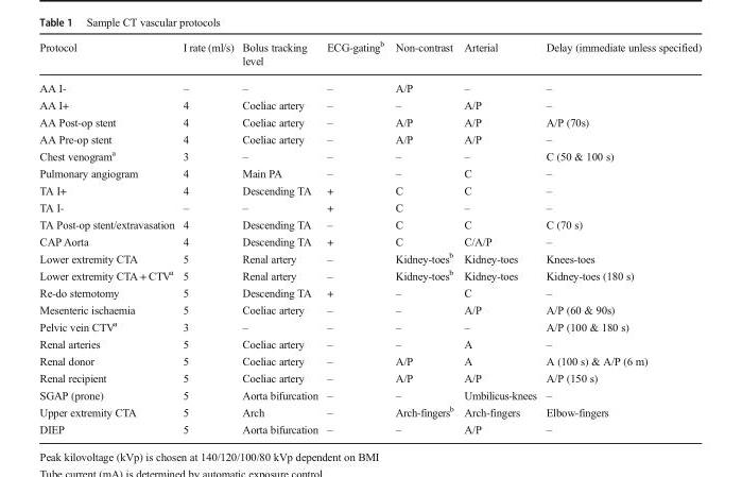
<table><thead><tr><td>Protocol</td><td>I rate (ml/s)</td><td>Bolus tracking level</td><td>ECG-gating<sup>b</sup></td><td>Non-contrast</td><td>Arterial</td><td>Delay (immediate unless specified)</td></tr></thead><tbody><tr><td>AA I-</td><td>–</td><td>–</td><td>–</td><td>A/P</td><td>–</td><td>–</td></tr><tr><td>AA I+</td><td>4</td><td>Coeliac artery</td><td>–</td><td>–</td><td>A/P</td><td>–</td></tr><tr><td>AA Post-op stent</td><td>4</td><td>Coeliac artery</td><td>–</td><td>A/P</td><td>A/P</td><td>A/P (70s)</td></tr><tr><td>AA Pre-op stent</td><td>4</td><td>Coeliac artery</td><td>–</td><td>A/P</td><td>A/P</td><td>–</td></tr><tr><td>Chest venogram<sup>a</sup></td><td>3</td><td>–</td><td>–</td><td>–</td><td>–</td><td>C (50 &amp; 100 s)</td></tr><tr><td>Pulmonary angiogram</td><td>4</td><td>Main PA</td><td>–</td><td>–</td><td>C</td><td>–</td></tr><tr><td>TA I+</td><td>4</td><td>Descending TA</td><td>+</td><td>C</td><td>C</td><td>–</td></tr><tr><td>TA I-</td><td>–</td><td>–</td><td>+</td><td>C</td><td>–</td><td>–</td></tr><tr><td>TA Post-op stent/extravasation</td><td>4</td><td>Descending TA</td><td>–</td><td>C</td><td>C</td><td>C (70 s)</td></tr><tr><td>CAP Aorta</td><td>4</td><td>Descending TA</td><td>+</td><td>C</td><td>C/A/P</td><td>–</td></tr><tr><td>Lower extremity CTA</td><td>5</td><td>Renal artery</td><td>–</td><td>Kidney-toes<sup>b</sup></td><td>Kidney-toes</td><td>Knees-toes</td></tr><tr><td>Lower extremity CTA + CTV<sup>a</sup></td><td>5</td><td>Renal artery</td><td>–</td><td>Kidney-toes<sup>b</sup></td><td>Kidney-toes</td><td>Kidney-toes (180 s)</td></tr><tr><td>Re-do sternotomy</td><td>5</td><td>Descending TA</td><td>+</td><td>–</td><td>C</td><td>–</td></tr><tr><td>Mesenteric ischaemia</td><td>5</td><td>Coeliac artery</td><td>–</td><td>–</td><td>A/P</td><td>A/P (60 &amp; 90s)</td></tr><tr><td>Pelvic vein CTV<sup>a</sup></td><td>3</td><td>–</td><td>–</td><td>–</td><td>–</td><td>A/P (100 &amp; 180 s)</td></tr><tr><td>Renal arteries</td><td>5</td><td>Coeliac artery</td><td>–</td><td>–</td><td>A</td><td>–</td></tr><tr><td>Renal donor</td><td>5</td><td>Coeliac artery</td><td>–</td><td>A/P</td><td>A</td><td>A (100 s) &amp; A/P (6 m)</td></tr><tr><td>Renal recipient</td><td>5</td><td>Coeliac artery</td><td>–</td><td>A/P</td><td>A/P</td><td>A/P (150 s)</td></tr><tr><td>SGAP (prone)</td><td>5</td><td>Aorta bifurcation</td><td>–</td><td>–</td><td>Umbilicus-knees</td><td>–</td></tr><tr><td>Upper extremity CTA</td><td>5</td><td>Arch</td><td>–</td><td>Arch-fingers<sup>b</sup></td><td>Arch-fingers</td><td>Elbow-fingers</td></tr><tr><td>DIEP</td><td>5</td><td>Aorta bifurcation</td><td>–</td><td>–</td><td>A/P</td><td>–</td></tr></tbody></table>